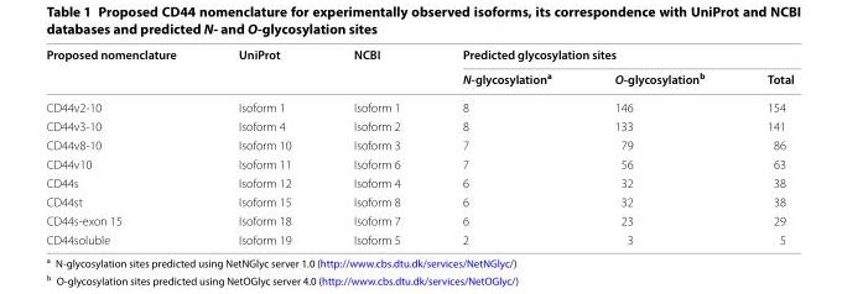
<table><thead><tr><td rowspan="2">Proposed nomenclature</td><td rowspan="2">UniProt</td><td rowspan="2">NCBI</td><td colspan="3">Predicted glycosylation sites</td></tr><tr><td>N-glycosylation<sup>a</sup></td><td>O-glycosylation<sup>b</sup></td><td>Total</td></tr></thead><tbody><tr><td>CD44v2‑10</td><td>Isoform 1</td><td>Isoform 1</td><td>8</td><td>146</td><td>154</td></tr><tr><td>CD44v3‑10</td><td>Isoform 4</td><td>Isoform 2</td><td>8</td><td>133</td><td>141</td></tr><tr><td>CD44v8‑10</td><td>Isoform 10</td><td>Isoform 3</td><td>7</td><td>79</td><td>86</td></tr><tr><td>CD44v10</td><td>Isoform 11</td><td>Isoform 6</td><td>7</td><td>56</td><td>63</td></tr><tr><td>CD44s</td><td>Isoform 12</td><td>Isoform 4</td><td>6</td><td>32</td><td>38</td></tr><tr><td>CD44st</td><td>Isoform 15</td><td>Isoform 8</td><td>6</td><td>32</td><td>38</td></tr><tr><td>CD44s‑exon 15</td><td>Isoform 18</td><td>Isoform 7</td><td>6</td><td>23</td><td>29</td></tr><tr><td>CD44soluble</td><td>Isoform 19</td><td>Isoform 5</td><td>2</td><td>3</td><td>5</td></tr></tbody></table>